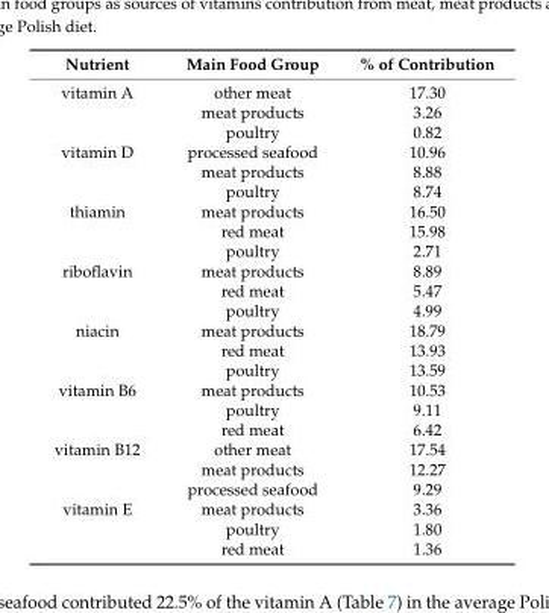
<table><thead><tr><td>Nutrient</td><td>Main Food Group</td><td>% of Contribution</td></tr></thead><tbody><tr><td rowspan="3">vitamin A</td><td>other meat</td><td>17.30</td></tr><tr><td>meat products</td><td>3.26</td></tr><tr><td>poultry</td><td>0.82</td></tr><tr><td rowspan="3">vitamin D</td><td>processed seafood</td><td>10.96</td></tr><tr><td>meat products</td><td>8.88</td></tr><tr><td>poultry</td><td>8.74</td></tr><tr><td rowspan="3">thiamin</td><td>meat products</td><td>16.50</td></tr><tr><td>red meat</td><td>15.98</td></tr><tr><td>poultry</td><td>2.71</td></tr><tr><td rowspan="3">riboflavin</td><td>meat products</td><td>8.89</td></tr><tr><td>red meat</td><td>5.47</td></tr><tr><td>poultry</td><td>4.99</td></tr><tr><td rowspan="3">niacin</td><td>meat products</td><td>18.79</td></tr><tr><td>red meat</td><td>13.93</td></tr><tr><td>poultry</td><td>13.59</td></tr><tr><td rowspan="3">vitamin B6</td><td>meat products</td><td>10.53</td></tr><tr><td>poultry</td><td>9.11</td></tr><tr><td>red meat</td><td>6.42</td></tr><tr><td rowspan="3">vitamin B12</td><td>other meat</td><td>17.54</td></tr><tr><td>meat products</td><td>12.27</td></tr><tr><td>processed seafood</td><td>9.29</td></tr><tr><td rowspan="3">vitamin E</td><td>meat products</td><td>3.36</td></tr><tr><td>poultry</td><td>1.80</td></tr><tr><td>red meat</td><td>1.36</td></tr></tbody></table>